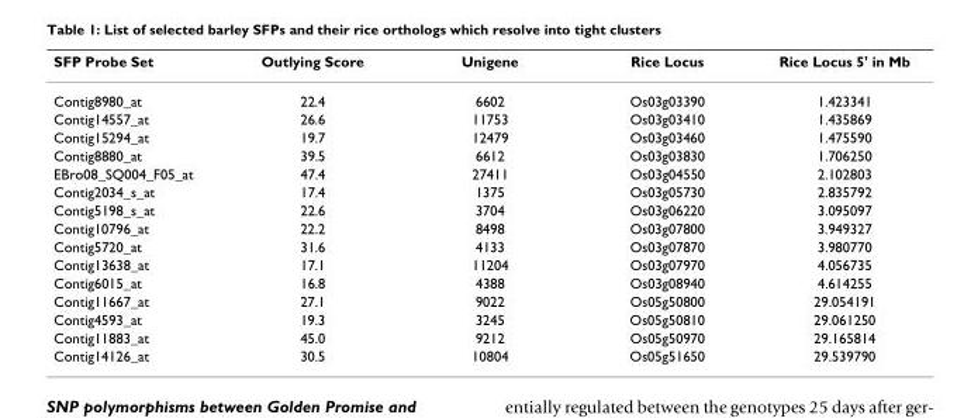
<table><thead><tr><td>SFP Probe Set</td><td>Outlying Score</td><td>Unigene</td><td>Rice Locus</td><td>Rice Locus 5&#x27; in Mb</td></tr></thead><tbody><tr><td>Contig8980_at</td><td>22.4</td><td>6602</td><td>Os03g03390</td><td>1.423341</td></tr><tr><td>Contig14557_at</td><td>26.6</td><td>11753</td><td>Os03g03410</td><td>1.435869</td></tr><tr><td>Contig15294_at</td><td>19.7</td><td>12479</td><td>Os03g03460</td><td>1.475590</td></tr><tr><td>Contig8880_at</td><td>39.5</td><td>6612</td><td>Os03g03830</td><td>1.706250</td></tr><tr><td>EBro08_SQ004_F05_at</td><td>47.4</td><td>27411</td><td>Os03g04550</td><td>2.102803</td></tr><tr><td>Contig2034_s_at</td><td>17.4</td><td>1375</td><td>Os03g05730</td><td>2.835792</td></tr><tr><td>Contig5198_s_at</td><td>22.6</td><td>3704</td><td>Os03g06220</td><td>3.095097</td></tr><tr><td>Contig10796_at</td><td>22.2</td><td>8498</td><td>Os03g07800</td><td>3.949327</td></tr><tr><td>Contig5720_at</td><td>31.6</td><td>4133</td><td>Os03g07870</td><td>3.980770</td></tr><tr><td>Contig13638_at</td><td>17.1</td><td>11204</td><td>Os03g07970</td><td>4.056735</td></tr><tr><td>Contig6015_at</td><td>16.8</td><td>4388</td><td>Os03g08940</td><td>4.614255</td></tr><tr><td>Contig11667_at</td><td>27.1</td><td>9022</td><td>Os05g50800</td><td>29.054191</td></tr><tr><td>Contig4593_at</td><td>19.3</td><td>3245</td><td>Os05g50810</td><td>29.061250</td></tr><tr><td>Contig11883_at</td><td>45.0</td><td>9212</td><td>Os05g50970</td><td>29.165814</td></tr><tr><td>Contig14126_at</td><td>30.5</td><td>10804</td><td>Os05g51650</td><td>29.539790</td></tr></tbody></table>